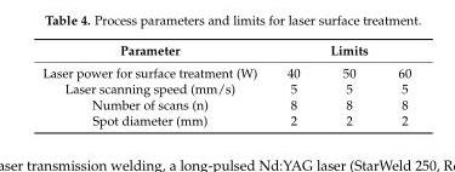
<table><thead><tr><td rowspan="2">Parameter Laser power for surface treatment (W)</td><td colspan="3">Limits</td></tr><tr><td>40</td><td>50</td><td>60</td></tr></thead><tbody><tr><td>Laser scanning speed (mm/s)</td><td>5</td><td>5</td><td>5</td></tr><tr><td>Number of scans (n)</td><td>8</td><td>8</td><td>8</td></tr><tr><td>Spot diameter (mm)</td><td>2</td><td>2</td><td>2</td></tr></tbody></table>